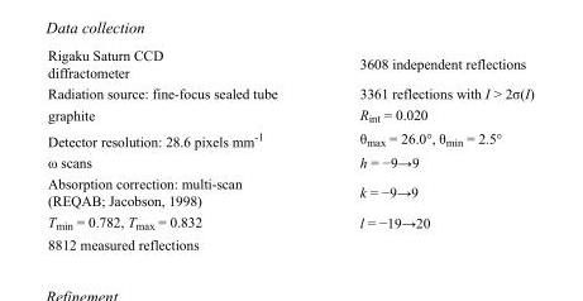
<table><tbody><tr><td>Rigaku Saturn CCD diffractometer</td><td>3608 independent reflections</td></tr><tr><td>Radiation source: fine-focus sealed tube</td><td>3361 reflections with I &gt; 2σ(I)</td></tr><tr><td>graphite</td><td>R<sub>int</sub> = 0.020</td></tr><tr><td>Detector resolution: 28.6 pixels mm<sup>-1</sup></td><td>θ<sub>max</sub> = 26.0°, θ<sub>min</sub> = 2.5°</td></tr><tr><td>ω scans</td><td>h = −9→9</td></tr><tr><td>Absorption correction: multi-scan (REQAB; Jacobson, 1998)</td><td>k = −9→9</td></tr><tr><td>T<sub>min</sub> = 0.782, T<sub>max</sub> = 0.832</td><td>l = −19→20</td></tr><tr><td>8812 measured reflections</td><td></td></tr></tbody></table>